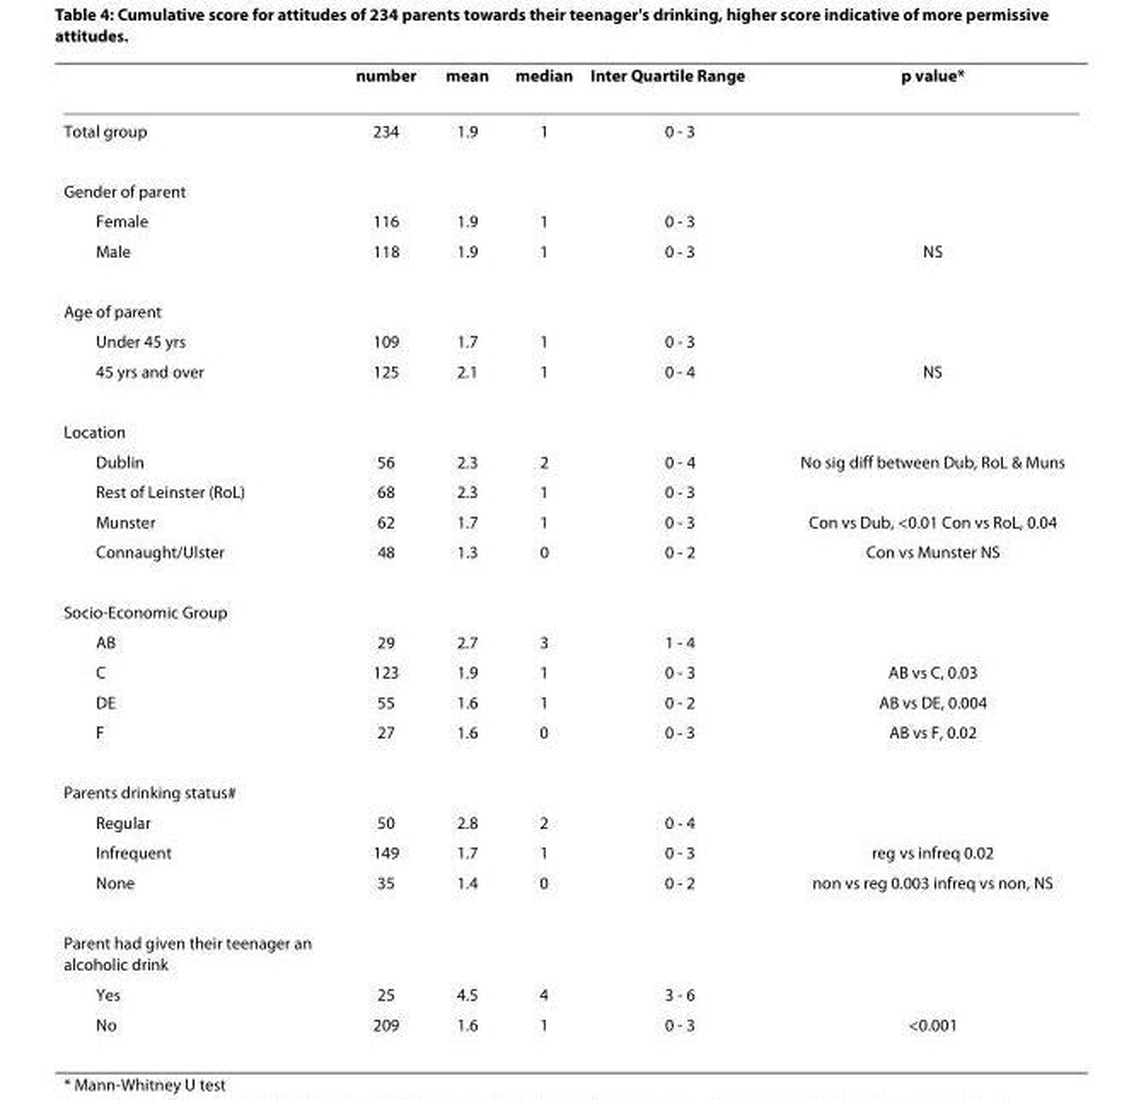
<table><thead><tr><td></td><td>number</td><td>mean</td><td>median</td><td>Inter Quartile Range</td><td>p value*</td></tr></thead><tbody><tr><td>Total group</td><td>234</td><td>1.9</td><td>1</td><td>0 - 3</td><td></td></tr><tr><td colspan="6">Gender of parent</td></tr><tr><td>Female</td><td>116</td><td>1.9</td><td>1</td><td>0 - 3</td><td></td></tr><tr><td>Male</td><td>118</td><td>1.9</td><td>1</td><td>0 - 3</td><td>NS</td></tr><tr><td colspan="6">Age of parent</td></tr><tr><td>Under 45 yrs</td><td>109</td><td>1.7</td><td>1</td><td>0 - 3</td><td></td></tr><tr><td>45 yrs and over</td><td>125</td><td>2.1</td><td>1</td><td>0 - 4</td><td>NS</td></tr><tr><td colspan="6">Location</td></tr><tr><td>Dublin</td><td>56</td><td>2.3</td><td>2</td><td>0 - 4</td><td>No sig diff between Dub, RoL &amp; Muns</td></tr><tr><td>Rest of Leinster (RoL)</td><td>68</td><td>2.3</td><td>1</td><td>0 - 3</td><td></td></tr><tr><td>Munster</td><td>62</td><td>1.7</td><td>1</td><td>0 - 3</td><td>Con vs Dub, &lt;0.01 Con vs RoL, 0.04</td></tr><tr><td>Connaught/Ulster</td><td>48</td><td>1.3</td><td>0</td><td>0 - 2</td><td>Con vs Munster NS</td></tr><tr><td colspan="6">Socio-Economic Group</td></tr><tr><td>AB</td><td>29</td><td>2.7</td><td>3</td><td>1 - 4</td><td></td></tr><tr><td>C</td><td>123</td><td>1.9</td><td>1</td><td>0 - 3</td><td>AB vs C, 0.03</td></tr><tr><td>DE</td><td>55</td><td>1.6</td><td>1</td><td>0 - 2</td><td>AB vs DE, 0.004</td></tr><tr><td>F</td><td>27</td><td>1.6</td><td>0</td><td>0 - 3</td><td>AB vs F, 0.02</td></tr><tr><td colspan="6">Parents drinking status#</td></tr><tr><td>Regular</td><td>50</td><td>2.8</td><td>2</td><td>0 - 4</td><td></td></tr><tr><td>Infrequent</td><td>149</td><td>1.7</td><td>1</td><td>0 - 3</td><td>reg vs infreq 0.02</td></tr><tr><td>None</td><td>35</td><td>1.4</td><td>0</td><td>0 - 2</td><td>non vs reg 0.003 infreq vs non, NS</td></tr><tr><td colspan="6">Parent had given their teenager an alcoholic drink</td></tr><tr><td>Yes</td><td>25</td><td>4.5</td><td>4</td><td>3 - 6</td><td></td></tr><tr><td>No</td><td>209</td><td>1.6</td><td>1</td><td>0 - 3</td><td>&lt;0.001</td></tr></tbody></table>